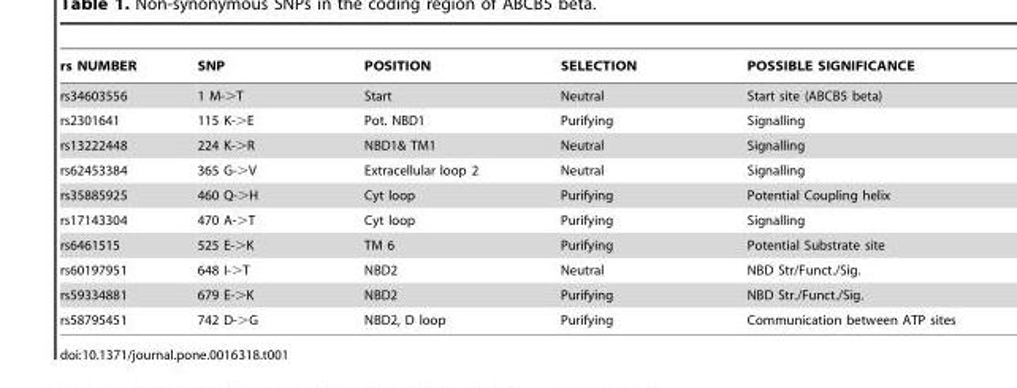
<table><thead><tr><td>rs NUMBER</td><td>SNP</td><td>POSITION</td><td>SELECTION</td><td>POSSIBLE SIGNIFICANCE</td></tr></thead><tbody><tr><td>rs34603556</td><td>1 M-&gt;T</td><td>Start</td><td>Neutral</td><td>Start site (ABCB5 beta)</td></tr><tr><td>rs2301641</td><td>115 K-&gt;E</td><td>Pot. NBD1</td><td>Purifying</td><td>Signalling</td></tr><tr><td>rs13222448</td><td>224 K-&gt;R</td><td>NBD1&amp; TM1</td><td>Neutral</td><td>Signalling</td></tr><tr><td>rs62453384</td><td>365 G-&gt;V</td><td>Extracellular loop 2</td><td>Neutral</td><td>Signalling</td></tr><tr><td>rs35885925</td><td>460 Q-&gt;H</td><td>Cyt loop</td><td>Purifying</td><td>Potential Coupling helix</td></tr><tr><td>rs17143304</td><td>470 A-&gt;T</td><td>Cyt loop</td><td>Purifying</td><td>Signalling</td></tr><tr><td>rs6461515</td><td>525 E-&gt;K</td><td>TM 6</td><td>Purifying</td><td>Potential Substrate site</td></tr><tr><td>rs60197951</td><td>648 I-&gt;T</td><td>NBD2</td><td>Neutral</td><td>NBD Str/Funct./Sig.</td></tr><tr><td>rs59334881</td><td>679 E-&gt;K</td><td>NBD2</td><td>Purifying</td><td>NBD Str./Funct./Sig.</td></tr><tr><td>rs58795451</td><td>742 D-&gt;G</td><td>NBD2, D loop</td><td>Purifying</td><td>Communication between ATP sites</td></tr></tbody></table>